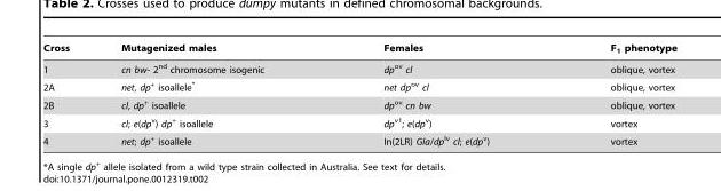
<table><thead><tr><td>Cross</td><td>Mutagenized males</td><td>Females</td><td>F<sub>1</sub> phenotype</td></tr></thead><tbody><tr><td>1</td><td>cn bw- 2<sup>nd</sup> chromosome isogenic</td><td>dp<sup>ov</sup> cl</td><td>oblique, vortex</td></tr><tr><td>2A</td><td>net, dp<sup>+</sup> isoallele*</td><td>net dp<sup>ov</sup> cl</td><td>oblique, vortex</td></tr><tr><td>2B</td><td>cl, dp<sup>+</sup> isoallele</td><td>dp<sup>ov</sup> cn bw</td><td>oblique, vortex</td></tr><tr><td>3</td><td>cl; e(dp<sup>v</sup>) dp<sup>+</sup> isoallele</td><td>dp<sup>v1</sup>; e(dp<sup>v</sup>)</td><td>vortex</td></tr><tr><td>4</td><td>net; dp<sup>+</sup> isoallele</td><td>In(2LR) Gla/dp<sup>lv</sup> cl; e(dp<sup>v</sup>)</td><td>vortex</td></tr></tbody></table>